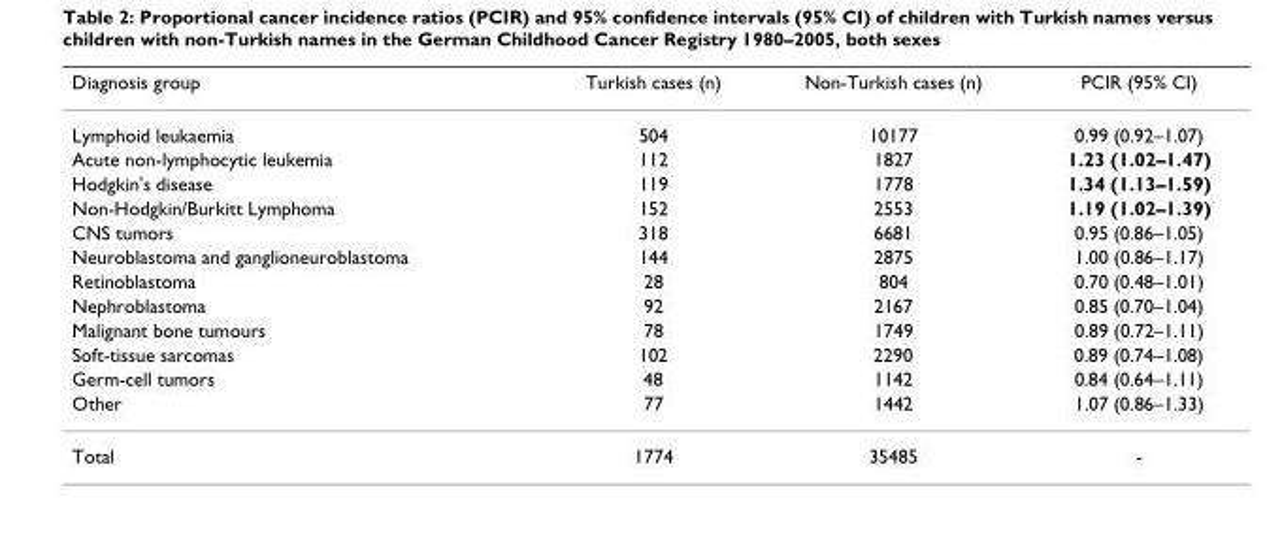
<table><thead><tr><td>Diagnosis group</td><td>Turkish cases (n)</td><td>Non-Turkish cases (n)</td><td>PCIR (95% CI)</td></tr></thead><tbody><tr><td>Lymphoid leukaemia</td><td>504</td><td>10177</td><td>0.99 (0.92–1.07)</td></tr><tr><td>Acute non-lymphocytic leukemia</td><td>112</td><td>1827</td><td>1.23 (1.02–1.47)</td></tr><tr><td>Hodgkin&#x27;s disease</td><td>119</td><td>1778</td><td>1.34 (1.13–1.59)</td></tr><tr><td>Non-Hodgkin/Burkitt Lymphoma</td><td>152</td><td>2553</td><td>1.19 (1.02–1.39)</td></tr><tr><td>CNS tumors</td><td>318</td><td>6681</td><td>0.95 (0.86–1.05)</td></tr><tr><td>Neuroblastoma and ganglioneuroblastoma</td><td>144</td><td>2875</td><td>1.00 (0.86–1.17)</td></tr><tr><td>Retinoblastoma</td><td>28</td><td>804</td><td>0.70 (0.48–1.01)</td></tr><tr><td>Nephroblastoma</td><td>92</td><td>2167</td><td>0.85 (0.70–1.04)</td></tr><tr><td>Malignant bone tumours</td><td>78</td><td>1749</td><td>0.89 (0.72–1.11)</td></tr><tr><td>Soft-tissue sarcomas</td><td>102</td><td>2290</td><td>0.89 (0.74–1.08)</td></tr><tr><td>Germ-cell tumors</td><td>48</td><td>1142</td><td>0.84 (0.64–1.11)</td></tr><tr><td>Other</td><td>77</td><td>1442</td><td>1.07 (0.86–1.33)</td></tr><tr><td>Total</td><td>1774</td><td>35485</td><td>-</td></tr></tbody></table>